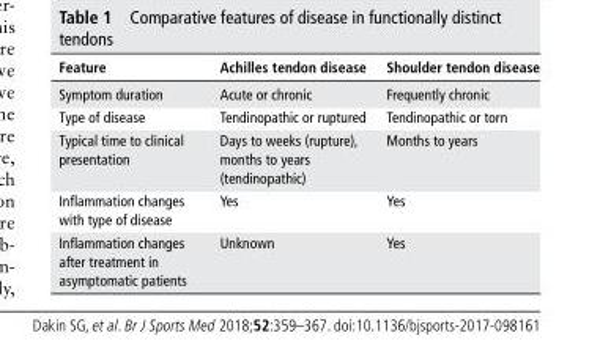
<table><thead><tr><td>Feature</td><td>Achilles tendon disease</td><td>shoulder tendon disease</td></tr></thead><tbody><tr><td>Symptom duration</td><td>Acute or chronic</td><td>Frequently chronic</td></tr><tr><td>Type of disease</td><td>Tendinopathic or ruptured</td><td>Tendinopathic or torn</td></tr><tr><td>Typical time to clinical presentation</td><td>Days to weeks (rupture), months to years (tendinopathic)</td><td>Months to years</td></tr><tr><td>Inflammation changes with type of disease</td><td>Yes</td><td>Yes</td></tr><tr><td>Inflammation changes after treatment in asymptomatic patients</td><td>Unknown</td><td>Yes</td></tr></tbody></table>